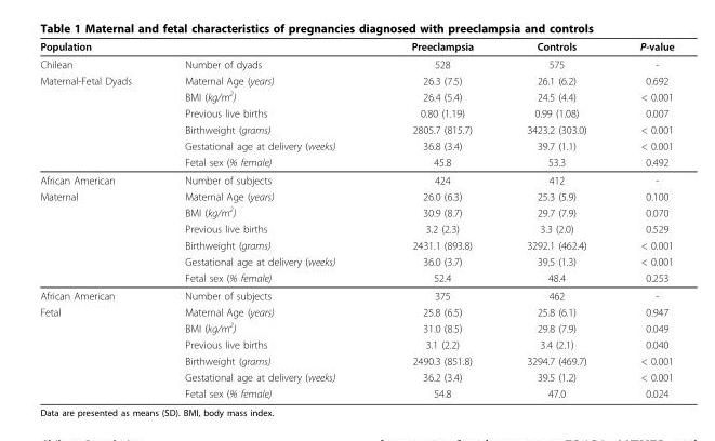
<table><thead><tr><td>Population</td><td></td><td>Preeclampsia</td><td>Controls</td><td>P-value</td></tr></thead><tbody><tr><td>Chilean</td><td>Number of dyads</td><td>528</td><td>575</td><td>-</td></tr><tr><td rowspan="6">Maternal-Fetal Dyads</td><td>Maternal Age (years)</td><td>26.3 (7.5)</td><td>26.1 (6.2)</td><td>0.692</td></tr><tr><td>BMI (kg/m<sup>2</sup>)</td><td>26.4 (5.4)</td><td>24.5 (4.4)</td><td>&lt; 0.001</td></tr><tr><td>Previous live births</td><td>0.80 (1.19)</td><td>0.99 (1.08)</td><td>0.007</td></tr><tr><td>Birthweight (grams)</td><td>2805.7 (815.7)</td><td>3423.2 (303.0)</td><td>&lt; 0.001</td></tr><tr><td>Gestational age at delivery (weeks)</td><td>36.8 (3.4)</td><td>39.7 (1.1)</td><td>&lt; 0.001</td></tr><tr><td>Fetal sex (% female)</td><td>45.8</td><td>53.3</td><td>0.492</td></tr><tr><td>African American</td><td>Number of subjects</td><td>424</td><td>412</td><td>-</td></tr><tr><td rowspan="6">Maternal</td><td>Maternal Age (years)</td><td>26.0 (6.3)</td><td>25.3 (5.9)</td><td>0.100</td></tr><tr><td>BMI (kg/m<sup>2</sup>)</td><td>30.9 (8.7)</td><td>29.7 (7.9)</td><td>0.070</td></tr><tr><td>Previous live births</td><td>3.2 (2.3)</td><td>3.3 (2.0)</td><td>0.529</td></tr><tr><td>Birthweight (grams)</td><td>2431.1 (893.8)</td><td>3292.1 (462.4)</td><td>&lt; 0.001</td></tr><tr><td>Gestational age at delivery (weeks)</td><td>36.0 (3.7)</td><td>39.5 (1.3)</td><td>&lt; 0.001</td></tr><tr><td>Fetal sex (% female)</td><td>52.4</td><td>48.4</td><td>0.253</td></tr><tr><td>African American</td><td>Number of subjects</td><td>375</td><td>462</td><td>-</td></tr><tr><td rowspan="6">Fetal</td><td>Maternal Age (years)</td><td>25.8 (6.5)</td><td>25.8 (6.1)</td><td>0.947</td></tr><tr><td>BMI (kg/m<sup>2</sup>)</td><td>31.0 (8.5)</td><td>29.8 (7.9)</td><td>0.049</td></tr><tr><td>Previous live births</td><td>3.1 (2.2)</td><td>3.4 (2.1)</td><td>0.040</td></tr><tr><td>Birthweight (grams)</td><td>2490.3 (851.8)</td><td>3294.7 (469.7)</td><td>&lt; 0.001</td></tr><tr><td>Gestational age at delivery (weeks)</td><td>36.2 (3.4)</td><td>39.5 (1.2)</td><td>&lt; 0.001</td></tr><tr><td>Fetal sex (% female)</td><td>54.8</td><td>47.0</td><td>0.024</td></tr></tbody></table>